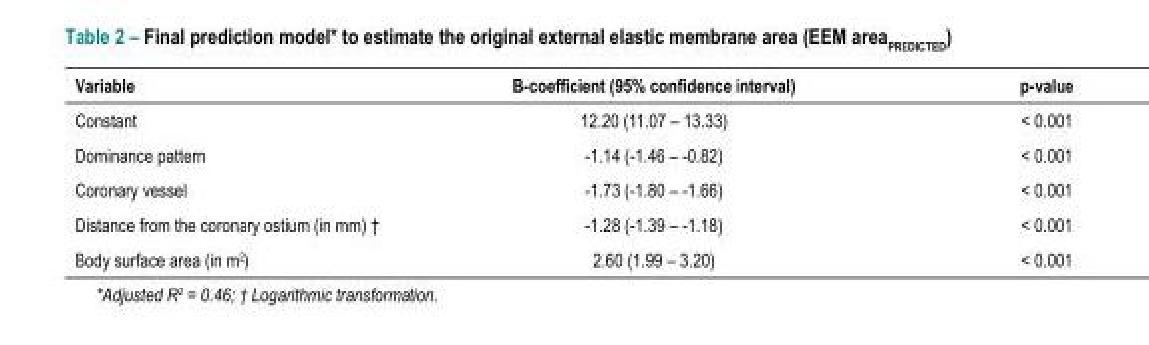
<table><thead><tr><td>Variable</td><td>Β-coefficient (95% confidence interval)</td><td>p-value</td></tr></thead><tbody><tr><td>Constant</td><td>12.20 (11.07 – 13.33)</td><td>&lt; 0.001</td></tr><tr><td>Dominance pattern</td><td>-1.14 (-1.46 – -0.82)</td><td>&lt; 0.001</td></tr><tr><td>Coronary vessel</td><td>-1.73 (-1.80 – -1.66)</td><td>&lt; 0.001</td></tr><tr><td>Distance from the coronary ostium (in mm) †</td><td>-1.28 (-1.39 – -1.18)</td><td>&lt; 0.001</td></tr><tr><td>Body surface area (in m<sup>2</sup>)</td><td>2.60 (1.99 – 3.20)</td><td>&lt; 0.001</td></tr></tbody></table>